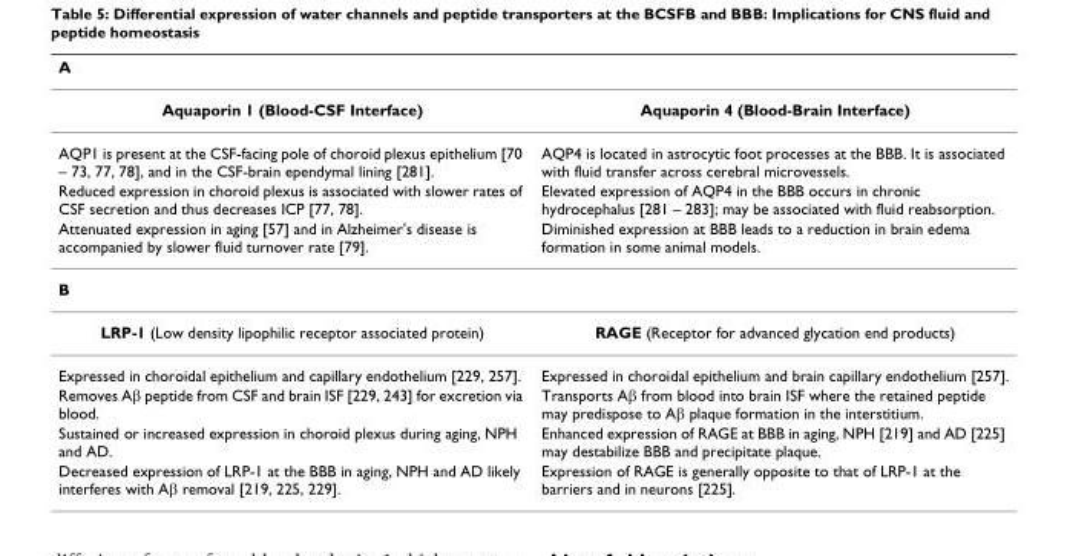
<table><thead><tr><td colspan="2">A</td></tr><tr><td>Aquaporin 1 (Blood-CSF Interface)</td><td>Aquaporin 4 (Blood-Brain Interface)</td></tr></thead><tbody><tr><td>AQP1 is present at the CSF-facing pole of choroid plexus epithelium [70 – 73, 77, 78], and in the CSF-brain ependymal lining [281].</td><td>AQP4 is located in astrocytic foot processes at the BBB. It is associated with fluid transfer across cerebral microvessels.</td></tr><tr><td>Reduced expression in choroid plexus is associated with slower rates of CSF secretion and thus decreases ICP [77, 78].</td><td>Elevated expression of AQP4 in the BBB occurs in chronic hydrocephalus [281 – 283]; may be associated with fluid reabsorption.</td></tr><tr><td>Attenuated expression in aging [57] and in Alzheimer&#x27;s disease is accompanied by slower fluid turnover rate [79].</td><td>Diminished expression at BBB leads to a reduction in brain edema formation in some animal models.</td></tr><tr><td colspan="2">B</td></tr><tr><td>LRP-1 (Low density lipophilic receptor associated protein)</td><td>RAGE (Receptor for advanced glycation end products)</td></tr><tr><td>Expressed in choroidal epithelium and capillary endothelium [229, 257].</td><td>Expressed in choroidal epithelium and brain capillary endothelium [257].</td></tr><tr><td>Removes Aβ peptide from CSF and brain ISF [229, 243] for excretion via blood.</td><td>Transports Aβ from blood into brain ISF where the retained peptide may predispose to Aβ plaque formation in the interstitium.</td></tr><tr><td>Sustained or increased expression in choroid plexus during aging, NPH and AD.</td><td>Enhanced expression of RAGE at BBB in aging, NPH [219] and AD [225] may destabilize BBB and precipitate plaque.</td></tr><tr><td>Decreased expression of LRP-1 at the BBB in aging, NPH and AD likely interferes with Aβ removal [219, 225, 229].</td><td>Expression of RAGE is generally opposite to that of LRP-1 at the barriers and in neurons [225].</td></tr></tbody></table>